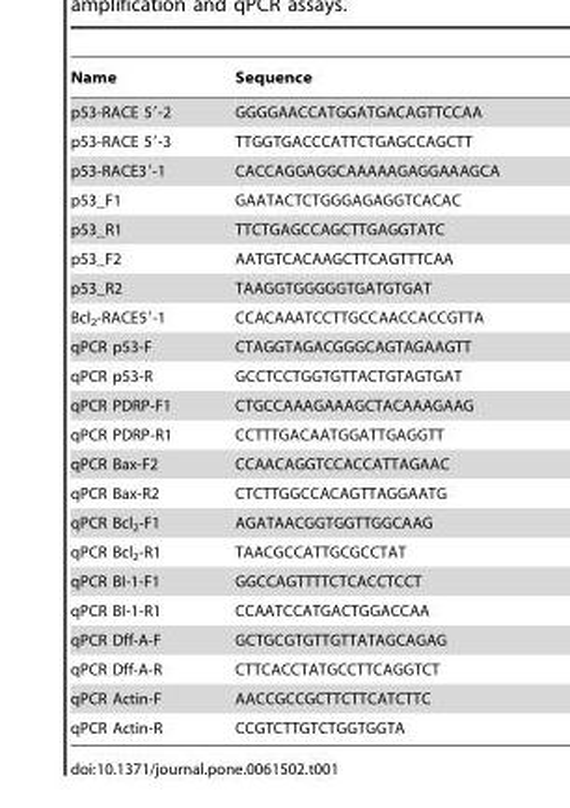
<table><thead><tr><td>Name</td><td>Sequence</td></tr></thead><tbody><tr><td>p53-RACE 5′-2</td><td>GGGGAACCATGGATGACAGTTCCAA</td></tr><tr><td>p53-RACE 5′-3</td><td>TTGGTGACCCATTCTGAGCCAGCTT</td></tr><tr><td>p53-RACE3′-1</td><td>CACCAGGAGGCAAAAAGAGGAAAGCA</td></tr><tr><td>p53_F1</td><td>GAATACTCTGGGAGAGGTCACAC</td></tr><tr><td>p53_R1</td><td>TTCTGAGCCAGCTTGAGGTATC</td></tr><tr><td>p53_F2</td><td>AATGTCACAAGCTTCAGTTTCAA</td></tr><tr><td>p53_R2</td><td>TAAGGTGGGGGTGATGTGAT</td></tr><tr><td>Bcl<sub>2</sub>-RACE5′-1</td><td>CCACAAATCCTTGCCAACCACCGTTA</td></tr><tr><td>qPCR p53-F</td><td>CTAGGTAGACGGGCAGTAGAAGTT</td></tr><tr><td>qPCR p53-R</td><td>GCCTCCTGGTGTTACTGTAGTGAT</td></tr><tr><td>qPCR PDRP-F1</td><td>CTGCCAAAGAAAGCTACAAAGAAG</td></tr><tr><td>qPCR PDRP-R1</td><td>CCTTTGACAATGGATTGAGGTT</td></tr><tr><td>qPCR Bax-F2</td><td>CCAACAGGTCCACCATTAGAAC</td></tr><tr><td>qPCR Bax-R2</td><td>CTCTTGGCCACAGTTAGGAATG</td></tr><tr><td>qPCR Bcl<sub>2</sub>-F1</td><td>AGATAACGGTGGTTGGCAAG</td></tr><tr><td>qPCR Bcl<sub>2</sub>-R1</td><td>TAACGCCATTGCGCCTAT</td></tr><tr><td>qPCR BI-1-F1</td><td>GGCCAGTTTTCTCACCTCCT</td></tr><tr><td>qPCR BI-1-R1</td><td>CCAATCCATGACTGGACCAA</td></tr><tr><td>qPCR Dff-A-F</td><td>GCTGCGTGTTGTTATAGCAGAG</td></tr><tr><td>qPCR Dff-A-R</td><td>CTTCACCTATGCCTTCAGGTCT</td></tr><tr><td>qPCR Actin-F</td><td>AACCGCCGCTTCTTCATCTTC</td></tr><tr><td>qPCR Actin-R</td><td>CCGTCTTGTCTGGTGGTA</td></tr></tbody></table>